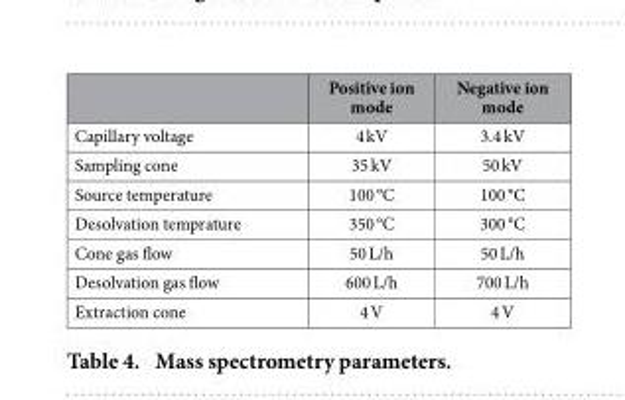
<table><thead><tr><td></td><td>Positive ion mode</td><td>Negative ion mode</td></tr></thead><tbody><tr><td>Capillary voltage</td><td>4 kV</td><td>3.4 kV</td></tr><tr><td>Sampling cone</td><td>35 kV</td><td>50 kV</td></tr><tr><td>Source temperature</td><td>100 °C</td><td>100 °C</td></tr><tr><td>Desolvation temprature</td><td>350 °C</td><td>300 °C</td></tr><tr><td>Cone gas flow</td><td>50 L/h</td><td>50 L/h</td></tr><tr><td>Desolvation gas flow</td><td>600 L/h</td><td>700 L/h</td></tr><tr><td>Extraction cone</td><td>4 V</td><td>4 V</td></tr></tbody></table>